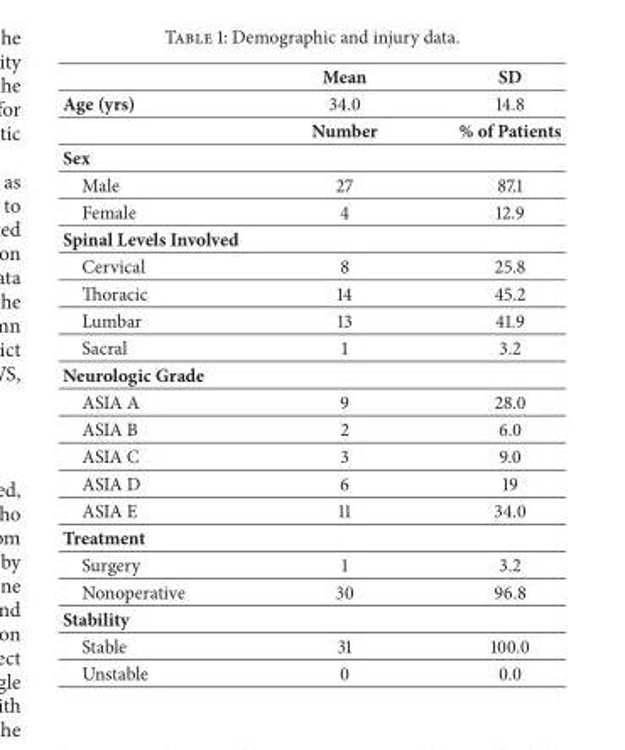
<table><thead><tr><td></td><td>Mean</td><td>SD</td></tr></thead><tbody><tr><td rowspan="2">Age (yrs)</td><td>34.0</td><td>14.8</td></tr><tr><td>Number</td><td>% of Patients</td></tr><tr><td colspan="3">Sex</td></tr><tr><td>Male</td><td>27</td><td>87.1</td></tr><tr><td>Female</td><td>4</td><td>12.9</td></tr><tr><td colspan="3">Spinal Levels Involved</td></tr><tr><td>Cervical</td><td>8</td><td>25.8</td></tr><tr><td>Thoracic</td><td>14</td><td>45.2</td></tr><tr><td>Lumbar</td><td>13</td><td>41.9</td></tr><tr><td>Sacral</td><td>1</td><td>3.2</td></tr><tr><td colspan="3">Neurologic Grade</td></tr><tr><td>ASIA A</td><td>9</td><td>28.0</td></tr><tr><td>ASIA B</td><td>2</td><td>6.0</td></tr><tr><td>ASIA C</td><td>3</td><td>9.0</td></tr><tr><td>ASIA D</td><td>6</td><td>19</td></tr><tr><td>ASIA E</td><td>11</td><td>34.0</td></tr><tr><td colspan="3">Treatment</td></tr><tr><td>Surgery</td><td>1</td><td>3.2</td></tr><tr><td>Nonoperative</td><td>30</td><td>96.8</td></tr><tr><td colspan="3">Stability</td></tr><tr><td>Stable</td><td>31</td><td>100.0</td></tr><tr><td>Unstable</td><td>0</td><td>0.0</td></tr></tbody></table>